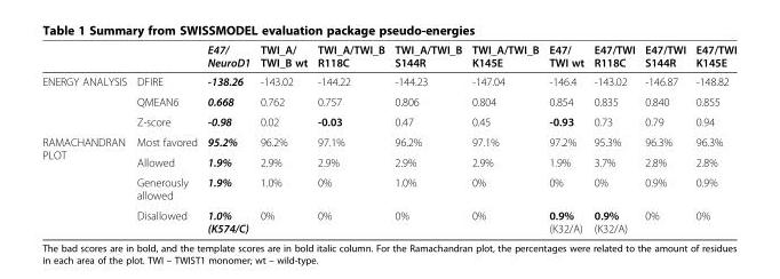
<table><thead><tr><td></td><td></td><td>E47/ NeuroD1</td><td>TWI_A/ TWI_B wt</td><td>TWI_A/TWI_B R118C</td><td>TWI_A/TWI_B S144R</td><td>TWI_A/TWI_B K145E</td><td>E47/ TWI wt</td><td>E47/TWI R118C</td><td>E47/TWI S144R</td><td>E47/TWI K145E</td></tr></thead><tbody><tr><td rowspan="3">ENERGY ANALYSIS</td><td>DFIRE</td><td>-138.26</td><td>-143.02</td><td>-144.22</td><td>-144.23</td><td>-147.04</td><td>-146.4</td><td>-143.02</td><td>-146.87</td><td>-148.82</td></tr><tr><td>QMEAN6</td><td>0.668</td><td>0.762</td><td>0.757</td><td>0.806</td><td>0.804</td><td>0.854</td><td>0.835</td><td>0.840</td><td>0.855</td></tr><tr><td>Z-score</td><td>-0.98</td><td>0.02</td><td>-0.03</td><td>0.47</td><td>0.45</td><td>-0.93</td><td>0.73</td><td>0.79</td><td>0.94</td></tr><tr><td rowspan="4">RAMACHANDRAN PLOT</td><td>Most favored</td><td>95.2%</td><td>96.2%</td><td>97.1%</td><td>96.2%</td><td>97.1%</td><td>97.2%</td><td>95.3%</td><td>96.3%</td><td>96.3%</td></tr><tr><td>Allowed</td><td>1.9%</td><td>2.9%</td><td>2.9%</td><td>2.9%</td><td>2.9%</td><td>1.9%</td><td>3.7%</td><td>2.8%</td><td>2.8%</td></tr><tr><td>Generously allowed</td><td>1.9%</td><td>1.0%</td><td>0%</td><td>1.0%</td><td>0%</td><td>0%</td><td>0%</td><td>0.9%</td><td>0.9%</td></tr><tr><td>Disallowed</td><td>1.0% (K574/C)</td><td>0%</td><td>0%</td><td>0%</td><td>0%</td><td>0.9% (K32/A)</td><td>0.9% (K32/A)</td><td>0%</td><td>0%</td></tr></tbody></table>